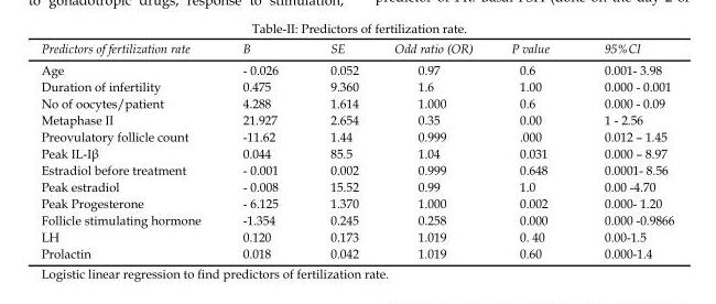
<table><thead><tr><td>Predictors of fertilization rate</td><td>Β</td><td>SE</td><td>Odd ratio (OR)</td><td>P value</td><td>95%CI</td></tr></thead><tbody><tr><td>Age</td><td>- 0.026</td><td>0.052</td><td>0.97</td><td>0.6</td><td>0.001- 3.98</td></tr><tr><td>Duration of infertility</td><td>0.475</td><td>9.360</td><td>1.6</td><td>1.00</td><td>0.000 - 0.001</td></tr><tr><td>No of oocytes/patient</td><td>4.288</td><td>1.614</td><td>1.000</td><td>0.6</td><td>0.000 - 0.09</td></tr><tr><td>Metaphase II</td><td>21.927</td><td>2.654</td><td>0.35</td><td>0.00</td><td>1 - 2.56</td></tr><tr><td>Preovulatory follicle count</td><td>-11.62</td><td>1.44</td><td>0.999</td><td>.000</td><td>0.012 – 1.45</td></tr><tr><td>Peak IL-Iβ</td><td>0.044</td><td>85.5</td><td>1.04</td><td>0.031</td><td>0.000 – 8.97</td></tr><tr><td>Estradiol before treatment</td><td>- 0.001</td><td>0.002</td><td>0.999</td><td>0.648</td><td>0.0001- 8.56</td></tr><tr><td>Peak estradiol</td><td>- 0.008</td><td>15.52</td><td>0.99</td><td>1.0</td><td>0.00 -4.70</td></tr><tr><td>Peak Progesterone</td><td>- 6.125</td><td>1.370</td><td>1.000</td><td>0.002</td><td>0.000- 1.20</td></tr><tr><td>Follicle stimulating hormone</td><td>-1.354</td><td>0.245</td><td>0.258</td><td>0.000</td><td>0.000 -0.9866</td></tr><tr><td>LH</td><td>0.120</td><td>0.173</td><td>1.019</td><td>0. 40</td><td>0.00-1.5</td></tr><tr><td>Prolactin</td><td>0.018</td><td>0.042</td><td>1.019</td><td>0.60</td><td>0.000-1.4</td></tr></tbody></table>